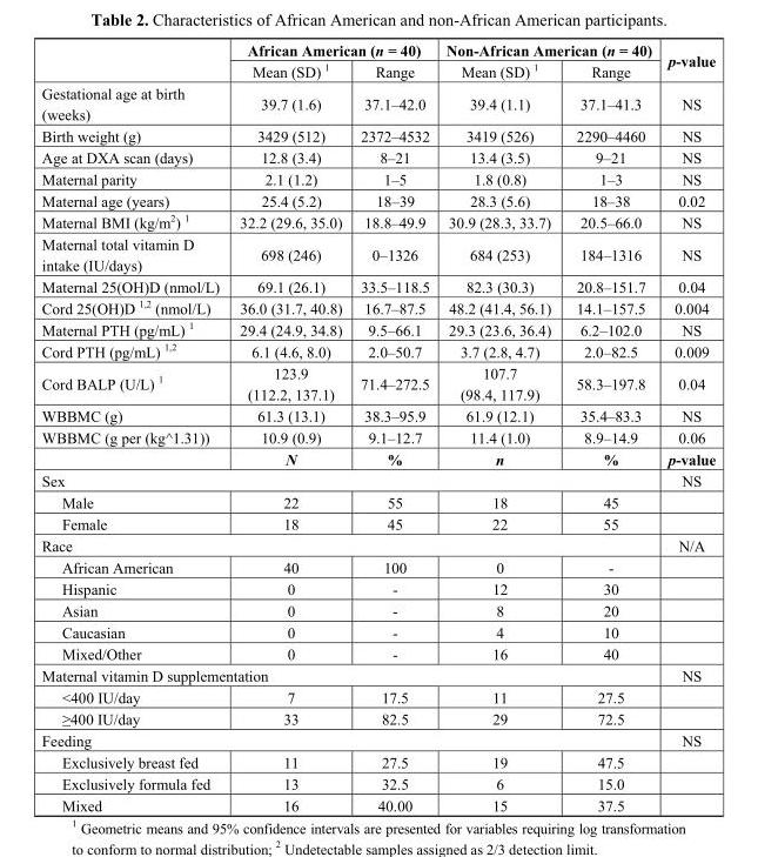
<table><thead><tr><td rowspan="2"></td><td colspan="2">African American (n = 40)</td><td colspan="2">Non-African American (n = 40)</td><td rowspan="2">p-value</td></tr><tr><td>Mean (SD) <sup>1</sup></td><td>Range</td><td>Mean (SD) <sup>1</sup></td><td>Range</td></tr></thead><tbody><tr><td>Gestational age at birth (weeks)</td><td>39.7 (1.6)</td><td>37.1–42.0</td><td>39.4 (1.1)</td><td>37.1–41.3</td><td>NS</td></tr><tr><td>Birth weight (g)</td><td>3429 (512)</td><td>2372–4532</td><td>3419 (526)</td><td>2290–4460</td><td>NS</td></tr><tr><td>Age at DXA scan (days)</td><td>12.8 (3.4)</td><td>8–21</td><td>13.4 (3.5)</td><td>9–21</td><td>NS</td></tr><tr><td>Maternal parity</td><td>2.1 (1.2)</td><td>1–5</td><td>1.8 (0.8)</td><td>1–3</td><td>NS</td></tr><tr><td>Maternal age (years)</td><td>25.4 (5.2)</td><td>18–39</td><td>28.3 (5.6)</td><td>18–38</td><td>0.02</td></tr><tr><td>Maternal BMI (kg/m<sup>2</sup>) <sup>1</sup></td><td>32.2 (29.6, 35.0)</td><td>18.8–49.9</td><td>30.9 (28.3, 33.7)</td><td>20.5–66.0</td><td>NS</td></tr><tr><td>Maternal total vitamin D intake (IU/days)</td><td>698 (246)</td><td>0–1326</td><td>684 (253)</td><td>184–1316</td><td>NS</td></tr><tr><td>Maternal 25(OH)D (nmol/L)</td><td>69.1 (26.1)</td><td>33.5–118.5</td><td>82.3 (30.3)</td><td>20.8–151.7</td><td>0.04</td></tr><tr><td>Cord 25(OH)D <sup>1,2</sup> (nmol/L)</td><td>36.0 (31.7, 40.8)</td><td>16.7–87.5</td><td>48.2 (41.4, 56.1)</td><td>14.1–157.5</td><td>0.004</td></tr><tr><td>Maternal PTH (pg/mL) <sup>1</sup></td><td>29.4 (24.9, 34.8)</td><td>9.5–66.1</td><td>29.3 (23.6, 36.4)</td><td>6.2–102.0</td><td>NS</td></tr><tr><td>Cord PTH (pg/mL) <sup>1,2</sup></td><td>6.1 (4.6, 8.0)</td><td>2.0–50.7</td><td>3.7 (2.8, 4.7)</td><td>2.0–82.5</td><td>0.009</td></tr><tr><td>Cord BALP (U/L) <sup>1</sup></td><td>123.9 (112.2, 137.1)</td><td>71.4–272.5</td><td>107.7 (98.4, 117.9)</td><td>58.3–197.8</td><td>0.04</td></tr><tr><td>WBBMC (g)</td><td>61.3 (13.1)</td><td>38.3–95.9</td><td>61.9 (12.1)</td><td>35.4–83.3</td><td>NS</td></tr><tr><td rowspan="2">WBBMC (g per (kg^1.31))</td><td>10.9 (0.9)</td><td>9.1–12.7</td><td>11.4 (1.0)</td><td>8.9–14.9</td><td>0.06</td></tr><tr><td>N</td><td>%</td><td>n</td><td>%</td><td>p-value</td></tr><tr><td colspan="5">Sex</td><td>NS</td></tr><tr><td>Male</td><td>22</td><td>55</td><td>18</td><td>45</td><td></td></tr><tr><td>Female</td><td>18</td><td>45</td><td>22</td><td>55</td><td></td></tr><tr><td colspan="5">Race</td><td>N/A</td></tr><tr><td>African American</td><td>40</td><td>100</td><td>0</td><td>-</td><td></td></tr><tr><td>Hispanic</td><td>0</td><td>-</td><td>12</td><td>30</td><td></td></tr><tr><td>Asian</td><td>0</td><td>-</td><td>8</td><td>20</td><td></td></tr><tr><td>Caucasian</td><td>0</td><td>-</td><td>4</td><td>10</td><td></td></tr><tr><td>Mixed/Other</td><td>0</td><td>-</td><td>16</td><td>40</td><td></td></tr><tr><td colspan="5">Maternal vitamin D supplementation</td><td>NS</td></tr><tr><td>&lt;400 IU/day</td><td>7</td><td>17.5</td><td>11</td><td>27.5</td><td></td></tr><tr><td>≥400 IU/day</td><td>33</td><td>82.5</td><td>29</td><td>72.5</td><td></td></tr><tr><td colspan="5">Feeding</td><td>NS</td></tr><tr><td>Exclusively breast fed</td><td>11</td><td>27.5</td><td>19</td><td>47.5</td><td></td></tr><tr><td>Exclusively formula fed</td><td>13</td><td>32.5</td><td>6</td><td>15.0</td><td></td></tr><tr><td>Mixed</td><td>16</td><td>40.00</td><td>15</td><td>37.5</td><td></td></tr></tbody></table>